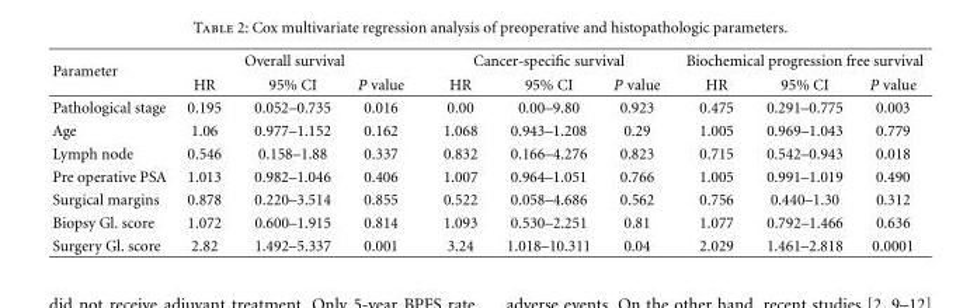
<table><thead><tr><td rowspan="2">Parameter</td><td colspan="3">Overall survival</td><td colspan="3">Cancer-specific survival</td><td colspan="3">Biochemical progression free survival</td></tr><tr><td>HR</td><td>95% CI</td><td>P value</td><td>HR</td><td>95% CI</td><td>P value</td><td>HR</td><td>95% CI</td><td>P value</td></tr></thead><tbody><tr><td>Pathological stage</td><td>0.195</td><td>0.052–0.735</td><td>0.016</td><td>0.00</td><td>0.00–9.80</td><td>0.923</td><td>0.475</td><td>0.291–0.775</td><td>0.003</td></tr><tr><td>Age</td><td>1.06</td><td>0.977–1.152</td><td>0.162</td><td>1.068</td><td>0.943–1.208</td><td>0.29</td><td>1.005</td><td>0.969–1.043</td><td>0.779</td></tr><tr><td>Lymph node</td><td>0.546</td><td>0.158–1.88</td><td>0.337</td><td>0.832</td><td>0.166–4.276</td><td>0.823</td><td>0.715</td><td>0.542–0.943</td><td>0.018</td></tr><tr><td>Pre operative PSA</td><td>1.013</td><td>0.982–1.046</td><td>0.406</td><td>1.007</td><td>0.964–1.051</td><td>0.766</td><td>1.005</td><td>0.991–1.019</td><td>0.490</td></tr><tr><td>Surgical margins</td><td>0.878</td><td>0.220–3.514</td><td>0.855</td><td>0.522</td><td>0.058–4.686</td><td>0.562</td><td>0.756</td><td>0.440–1.30</td><td>0.312</td></tr><tr><td>Biopsy Gl. score</td><td>1.072</td><td>0.600–1.915</td><td>0.814</td><td>1.093</td><td>0.530–2.251</td><td>0.81</td><td>1.077</td><td>0.792–1.466</td><td>0.636</td></tr><tr><td>Surgery Gl. score</td><td>2.82</td><td>1.492–5.337</td><td>0.001</td><td>3.24</td><td>1.018–10.311</td><td>0.04</td><td>2.029</td><td>1.461–2.818</td><td>0.0001</td></tr></tbody></table>